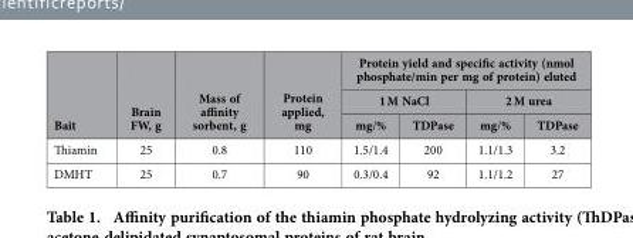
<table><thead><tr><td rowspan="3">Bait</td><td rowspan="3">Brain FW, g</td><td rowspan="3">Mass of affinity sorbent, g</td><td rowspan="3">Protein applied, mg</td><td colspan="4">Protein yield and specific activity (nmol phosphate/min per mg of protein) eluted</td></tr><tr><td colspan="2">1 M NaCl</td><td colspan="2">2 М urea</td></tr><tr><td>mg/%</td><td>TDPase</td><td>mg/%</td><td>TDPase</td></tr></thead><tbody><tr><td>Thiamin</td><td>25</td><td>0.8</td><td>110</td><td>1.5/1.4</td><td>200</td><td>1.1/1.3</td><td>3.2</td></tr><tr><td>DMHT</td><td>25</td><td>0.7</td><td>90</td><td>0.3/0.4</td><td>92</td><td>1.1/1.2</td><td>27</td></tr></tbody></table>